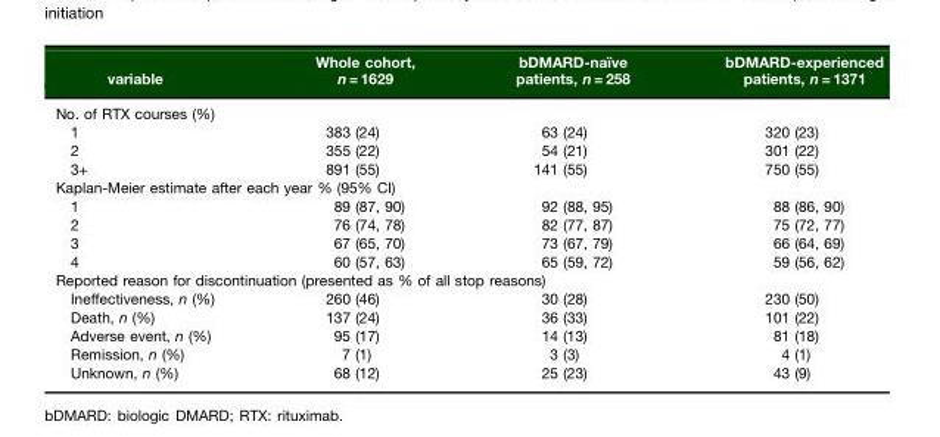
<table><thead><tr><td>variable</td><td>Whole cohort, n = 1629</td><td>bDMARD-naı¨ve patients, n = 258</td><td>bDMARD-experienced patients, n = 1371</td></tr></thead><tbody><tr><td colspan="4">No. of RTX courses (%)</td></tr><tr><td>1</td><td>383 (24)</td><td>63 (24)</td><td>320 (23)</td></tr><tr><td>2</td><td>355 (22)</td><td>54 (21)</td><td>301 (22)</td></tr><tr><td>3+</td><td>891 (55)</td><td>141 (55)</td><td>750 (55)</td></tr><tr><td colspan="4">Kaplan-Meier estimate after each year % (95% CI)</td></tr><tr><td>1</td><td>89 (87, 90)</td><td>92 (88, 95)</td><td>88 (86, 90)</td></tr><tr><td>2</td><td>76 (74, 78)</td><td>82 (77, 87)</td><td>75 (72, 77)</td></tr><tr><td>3</td><td>67 (65, 70)</td><td>73 (67, 79)</td><td>66 (64, 69)</td></tr><tr><td>4</td><td>60 (57, 63)</td><td>65 (59, 72)</td><td>59 (56, 62)</td></tr><tr><td colspan="4">Reported reason for discontinuation (presented as % of all stop reasons)</td></tr><tr><td>Ineffectiveness, n (%)</td><td>260 (46)</td><td>30 (28)</td><td>230 (50)</td></tr><tr><td>Death, n (%)</td><td>137 (24)</td><td>36 (33)</td><td>101 (22)</td></tr><tr><td>Adverse event, n (%)</td><td>95 (17)</td><td>14 (13)</td><td>81 (18)</td></tr><tr><td>Remission, n (%)</td><td>7 (1)</td><td>3 (3)</td><td>4 (1)</td></tr><tr><td>Unknown, n (%)</td><td>68 (12)</td><td>25 (23)</td><td>43 (9)</td></tr></tbody></table>